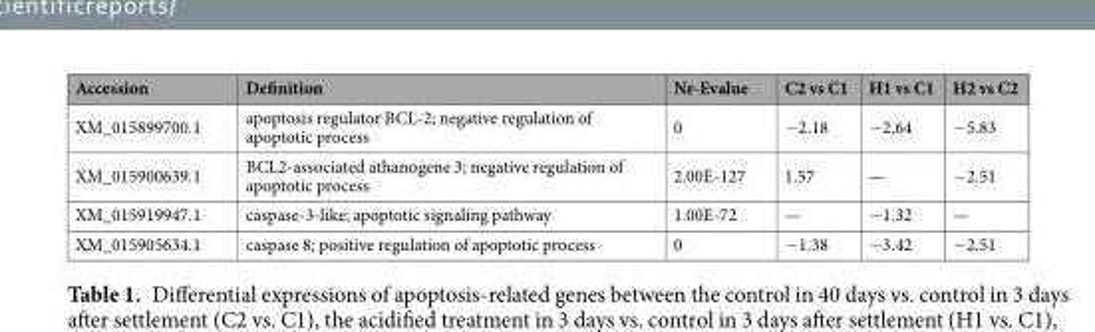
<table><thead><tr><td>Accession</td><td>Definition</td><td>Nr-Evalue</td><td>C2 vs C1</td><td>H1 vs C1</td><td>H2 vs C2</td></tr></thead><tbody><tr><td>XM_015899700.1</td><td>apoptosis regulator BCL-2; negative regulation of apoptotic process</td><td>0</td><td>−2.18</td><td>−2.64</td><td>−5.83</td></tr><tr><td>XM_015900639.1</td><td>BCL2-associated athanogene 3; negative regulation of apoptotic process</td><td>2.00E-127</td><td>1.57</td><td>—</td><td>−2.51</td></tr><tr><td>XM_015919947.1</td><td>caspase-3-like; apoptotic signaling pathway</td><td>1.00E-72</td><td>—</td><td>−1.32</td><td>—</td></tr><tr><td>XM_015905634.1</td><td>caspase 8; positive regulation of apoptotic process</td><td>0</td><td>−1.38</td><td>−3.42</td><td>−2.51</td></tr></tbody></table>